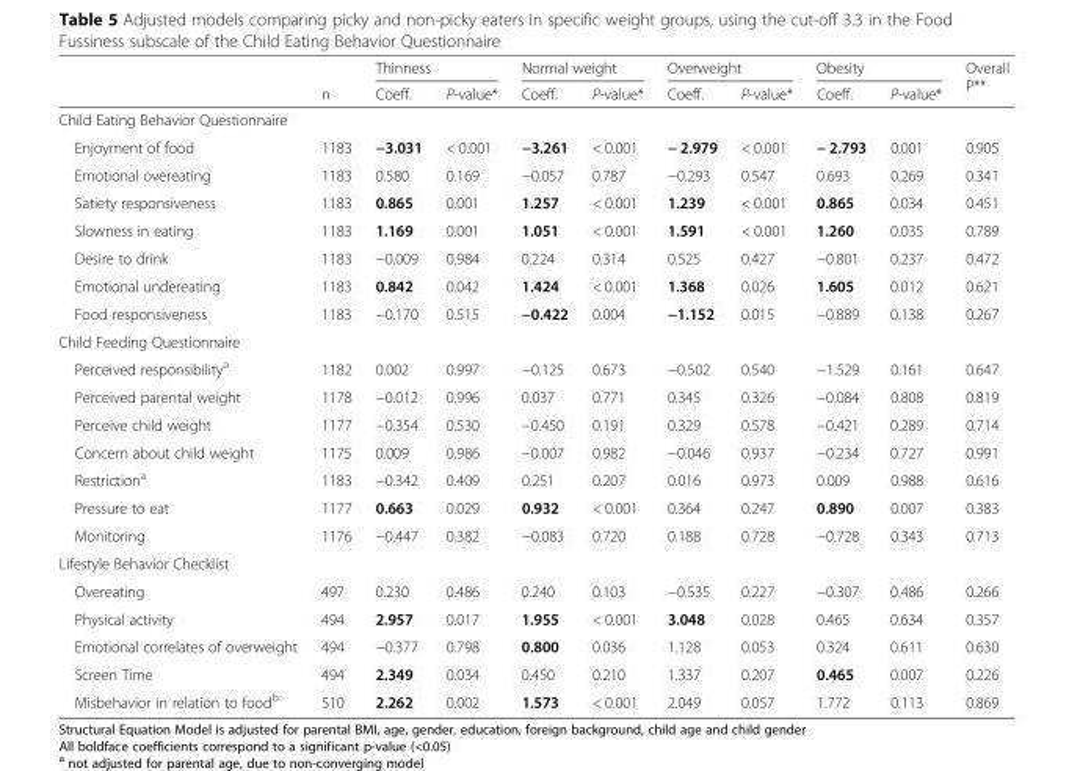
<table><thead><tr><td rowspan="2"></td><td rowspan="2">n</td><td colspan="2">Thinness</td><td colspan="2">Normal weight</td><td colspan="2">Overweight</td><td colspan="2">Obesity</td><td rowspan="2">Overall P**</td></tr><tr><td>Coeff.</td><td>P-value*</td><td>Coeff.</td><td>P-value*</td><td>Coeff.</td><td>P-value*</td><td>Coeff.</td><td>P-value*</td></tr></thead><tbody><tr><td colspan="11">Child Eating Behavior Questionnaire</td></tr><tr><td>Enjoyment of food</td><td>1183</td><td>−3.031</td><td>&lt; 0.001</td><td>−3.261</td><td>&lt; 0.001</td><td>− 2.979</td><td>&lt; 0.001</td><td>− 2.793</td><td>0.001</td><td>0.905</td></tr><tr><td>Emotional overeating</td><td>1183</td><td>0.580</td><td>0.169</td><td>−0.057</td><td>0.787</td><td>−0.293</td><td>0.547</td><td>0.693</td><td>0.269</td><td>0.341</td></tr><tr><td>Satiety responsiveness</td><td>1183</td><td>0.865</td><td>0.001</td><td>1.257</td><td>&lt; 0.001</td><td>1.239</td><td>&lt; 0.001</td><td>0.865</td><td>0.034</td><td>0.451</td></tr><tr><td>Slowness in eating</td><td>1183</td><td>1.169</td><td>0.001</td><td>1.051</td><td>&lt; 0.001</td><td>1.591</td><td>&lt; 0.001</td><td>1.260</td><td>0.035</td><td>0.789</td></tr><tr><td>Desire to drink</td><td>1183</td><td>−0.009</td><td>0.984</td><td>0.224</td><td>0.314</td><td>0.525</td><td>0.427</td><td>−0.801</td><td>0.237</td><td>0.472</td></tr><tr><td>Emotional undereating</td><td>1183</td><td>0.842</td><td>0.042</td><td>1.424</td><td>&lt; 0.001</td><td>1.368</td><td>0.026</td><td>1.605</td><td>0.012</td><td>0.621</td></tr><tr><td>Food responsiveness</td><td>1183</td><td>−0.170</td><td>0.515</td><td>−0.422</td><td>0.004</td><td>−1.152</td><td>0.015</td><td>−0.889</td><td>0.138</td><td>0.267</td></tr><tr><td colspan="11">Child Feeding Questionnaire</td></tr><tr><td>Perceived responsibility<sup>a</sup></td><td>1182</td><td>0.002</td><td>0.997</td><td>−0.125</td><td>0.673</td><td>−0.502</td><td>0.540</td><td>−1.529</td><td>0.161</td><td>0.647</td></tr><tr><td>Perceived parental weight</td><td>1178</td><td>−0.012</td><td>0.996</td><td>0.037</td><td>0.771</td><td>0.345</td><td>0.326</td><td>−0.084</td><td>0.808</td><td>0.819</td></tr><tr><td>Perceive child weight</td><td>1177</td><td>−0.354</td><td>0.530</td><td>−0.450</td><td>0.191</td><td>0.329</td><td>0.578</td><td>−0.421</td><td>0.289</td><td>0.714</td></tr><tr><td>Concern about child weight</td><td>1175</td><td>0.009</td><td>0.986</td><td>−0.007</td><td>0.982</td><td>−0.046</td><td>0.937</td><td>−0.234</td><td>0.727</td><td>0.991</td></tr><tr><td>Restriction<sup>a</sup></td><td>1183</td><td>−0.342</td><td>0.409</td><td>0.251</td><td>0.207</td><td>0.016</td><td>0.973</td><td>0.009</td><td>0.988</td><td>0.616</td></tr><tr><td>Pressure to eat</td><td>1177</td><td>0.663</td><td>0.029</td><td>0.932</td><td>&lt; 0.001</td><td>0.364</td><td>0.247</td><td>0.890</td><td>0.007</td><td>0.383</td></tr><tr><td>Monitoring</td><td>1176</td><td>−0.447</td><td>0.382</td><td>−0.083</td><td>0.720</td><td>0.188</td><td>0.728</td><td>−0.728</td><td>0.343</td><td>0.713</td></tr><tr><td colspan="11">Lifestyle Behavior Checklist</td></tr><tr><td>Overeating</td><td>497</td><td>0.230</td><td>0.486</td><td>0.240</td><td>0.103</td><td>−0.535</td><td>0.227</td><td>−0.307</td><td>0.486</td><td>0.266</td></tr><tr><td>Physical activity</td><td>494</td><td>2.957</td><td>0.017</td><td>1.955</td><td>&lt; 0.001</td><td>3.048</td><td>0.028</td><td>0.465</td><td>0.634</td><td>0.357</td></tr><tr><td>Emotional correlates of overweight</td><td>494</td><td>−0.377</td><td>0.798</td><td>0.800</td><td>0.036</td><td>1.128</td><td>0.053</td><td>0.324</td><td>0.611</td><td>0.630</td></tr><tr><td>Screen Time</td><td>494</td><td>2.349</td><td>0.034</td><td>0.450</td><td>0.210</td><td>1.337</td><td>0.207</td><td>0.465</td><td>0.007</td><td>0.226</td></tr><tr><td>Misbehavior in relation to food<sup>b</sup></td><td>510</td><td>2.262</td><td>0.002</td><td>1.573</td><td>&lt; 0.001</td><td>2.049</td><td>0.057</td><td>1.772</td><td>0.113</td><td>0.869</td></tr></tbody></table>